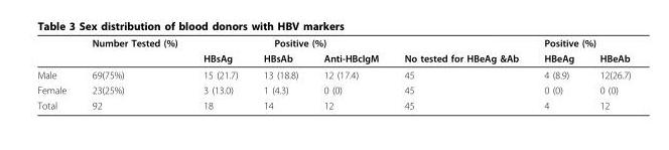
<table><thead><tr><td rowspan="2"></td><td rowspan="2">Number Tested (%)</td><td colspan="3">Positive (%)</td><td rowspan="2">No tested for HBeAg &amp;Ab</td><td colspan="2">Positive (%)</td></tr><tr><td>HBsAg</td><td>HBsAb</td><td>Anti-HBcIgM</td><td>HBeAg</td><td>HBeAb</td></tr></thead><tbody><tr><td>Male</td><td>69(75%)</td><td>15 (21.7)</td><td>13 (18.8)</td><td>12 (17.4)</td><td>45</td><td>4 (8.9)</td><td>12(26.7)</td></tr><tr><td>Female</td><td>23(25%)</td><td>3 (13.0)</td><td>1 (4.3)</td><td>0 (0)</td><td>45</td><td>0 (0)</td><td>0 (0)</td></tr><tr><td>Total</td><td>92</td><td>18</td><td>14</td><td>12</td><td>45</td><td>4</td><td>12</td></tr></tbody></table>